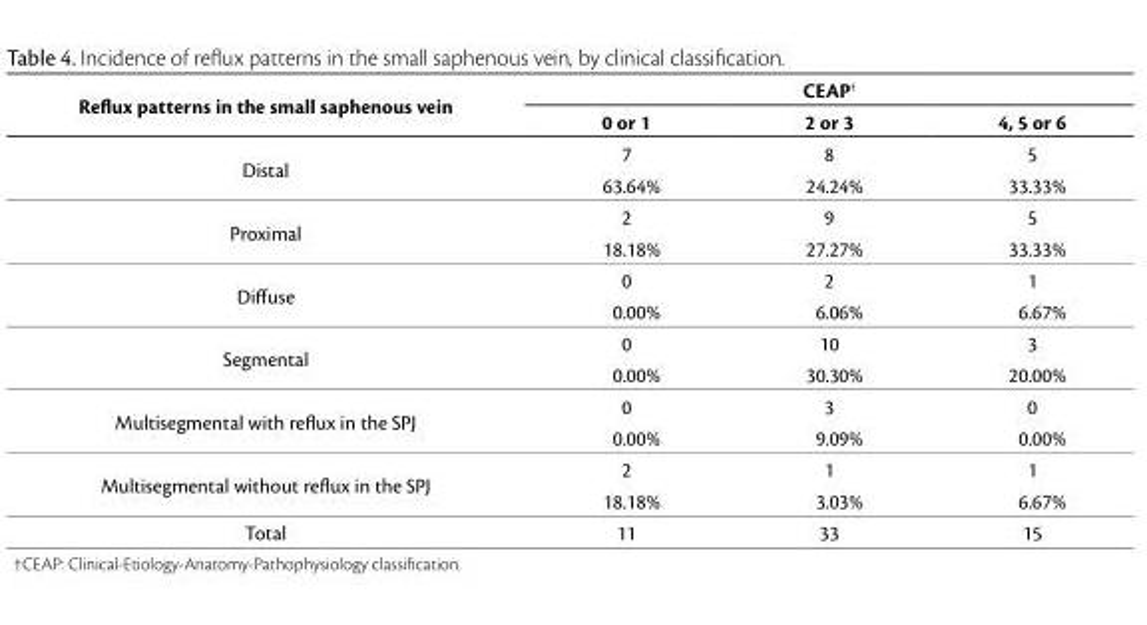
<table><thead><tr><td rowspan="2">Reflux patterns in the small saphenous vein</td><td colspan="3">CEAP†</td></tr><tr><td>0 or 1</td><td>2 or 3</td><td>4, 5 or 6</td></tr></thead><tbody><tr><td rowspan="2">Distal</td><td>7</td><td>8</td><td>5</td></tr><tr><td>63.64%</td><td>24.24%</td><td>33.33%</td></tr><tr><td rowspan="2">Proximal</td><td>2</td><td>9</td><td>5</td></tr><tr><td>18.18%</td><td>27.27%</td><td>33.33%</td></tr><tr><td rowspan="2">Diffuse</td><td>0</td><td>2</td><td>1</td></tr><tr><td>0.00%</td><td>6.06%</td><td>6.67%</td></tr><tr><td rowspan="2">Segmental</td><td>0</td><td>10</td><td>3</td></tr><tr><td>0.00%</td><td>30.30%</td><td>20.00%</td></tr><tr><td rowspan="2">Multisegmental with reflux in the SPJ</td><td>0</td><td>3</td><td>0</td></tr><tr><td>0.00%</td><td>9.09%</td><td>0.00%</td></tr><tr><td rowspan="2">Multisegmental without reflux in the SPJ</td><td>2</td><td>1</td><td>1</td></tr><tr><td>18.18%</td><td>3.03%</td><td>6.67%</td></tr><tr><td>Total</td><td>11</td><td>33</td><td>15</td></tr></tbody></table>